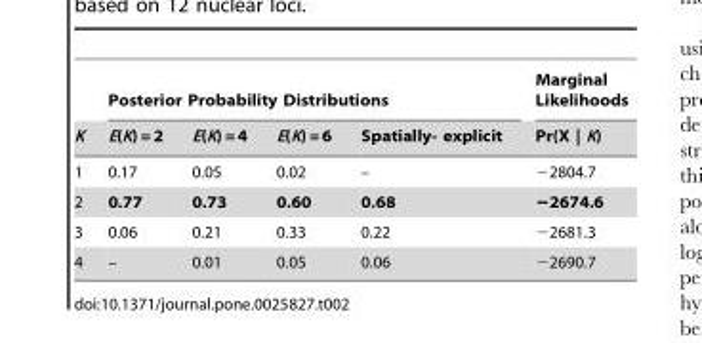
<table><thead><tr><td rowspan="2">K</td><td colspan="4">Posterior Probability Distributions</td><td rowspan="2">Marginal Likelihoods Pr(X | K)</td></tr><tr><td>E(K) = 2</td><td>E(K) = 4</td><td>E(K) = 6</td><td>Spatially- explicit</td></tr></thead><tbody><tr><td>1</td><td>0.17</td><td>0.05</td><td>0.02</td><td>–</td><td>−2804.7</td></tr><tr><td>2</td><td>0.77</td><td>0.73</td><td>0.60</td><td>0.68</td><td>−2674.6</td></tr><tr><td>3</td><td>0.06</td><td>0.21</td><td>0.33</td><td>0.22</td><td>−2681.3</td></tr><tr><td>4</td><td>–</td><td>0.01</td><td>0.05</td><td>0.06</td><td>−2690.7</td></tr></tbody></table>